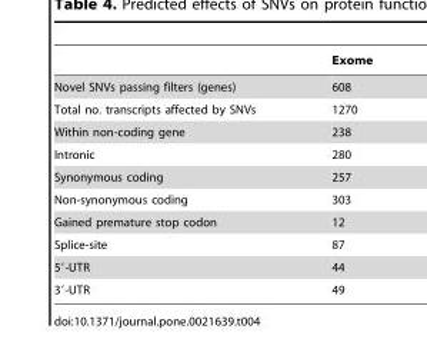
<table><thead><tr><td></td><td>Exome</td></tr></thead><tbody><tr><td>Novel SNVs passing filters (genes)</td><td>608</td></tr><tr><td>Total no. transcripts affected by SNVs</td><td>1270</td></tr><tr><td>Within non-coding gene</td><td>238</td></tr><tr><td>Intronic</td><td>280</td></tr><tr><td>Synonymous coding</td><td>257</td></tr><tr><td>Non-synonymous coding</td><td>303</td></tr><tr><td>Gained premature stop codon</td><td>12</td></tr><tr><td>Splice-site</td><td>87</td></tr><tr><td>5′-UTR</td><td>44</td></tr><tr><td>3′-UTR</td><td>49</td></tr></tbody></table>